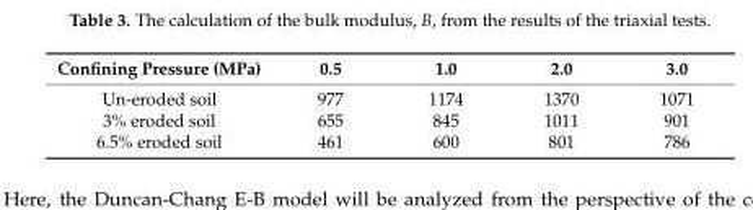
<table><thead><tr><td>Confining Pressure (MPa)</td><td>0.5</td><td>1.0</td><td>2.0</td><td>3.0</td></tr></thead><tbody><tr><td>Un-eroded soil</td><td>977</td><td>1174</td><td>1370</td><td>1071</td></tr><tr><td>3% eroded soil</td><td>655</td><td>845</td><td>1011</td><td>901</td></tr><tr><td>6.5% eroded soil</td><td>461</td><td>600</td><td>801</td><td>786</td></tr></tbody></table>